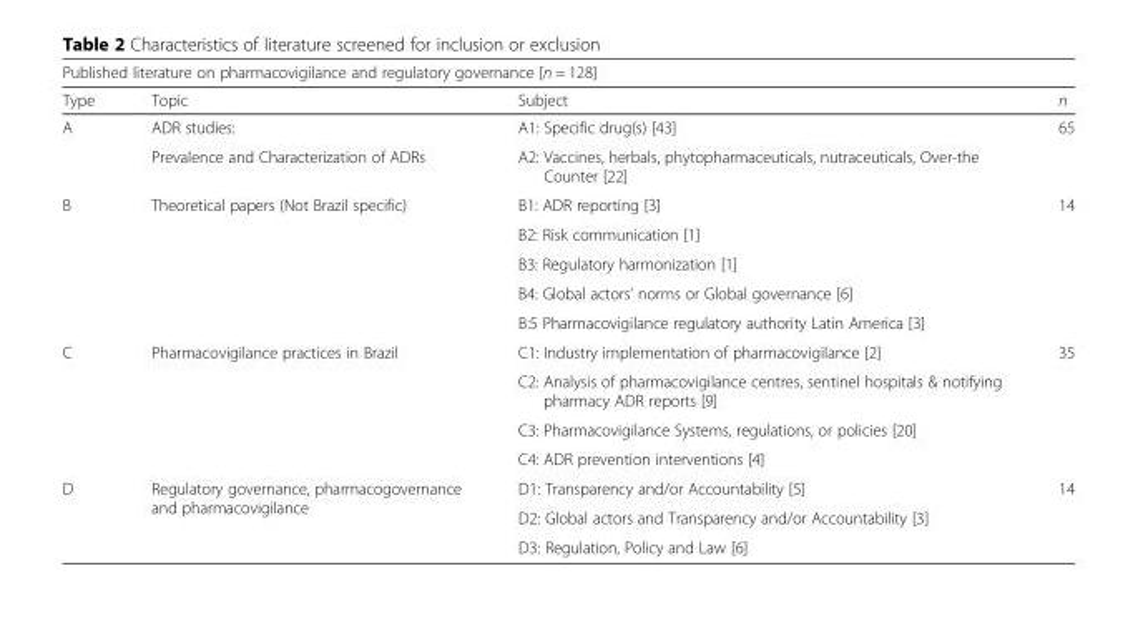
<table><thead><tr><td colspan="4">Published literature on pharmacovigilance and regulatory governance [n = 128]</td></tr><tr><td>Type</td><td>Topic</td><td>Subject</td><td>n</td></tr></thead><tbody><tr><td rowspan="2">A</td><td>ADR studies:</td><td>A1: Specific drug(s) [43]</td><td rowspan="2">65</td></tr><tr><td>Prevalence and Characterization of ADRs</td><td>A2: Vaccines, herbals, phytopharmaceuticals, nutraceuticals, Over-the Counter [22]</td></tr><tr><td rowspan="5">B</td><td rowspan="5">Theoretical papers (Not Brazil specific)</td><td>B1: ADR reporting [3]</td><td rowspan="5">14</td></tr><tr><td>B2: Risk communication [1]</td></tr><tr><td>B3: Regulatory harmonization [1]</td></tr><tr><td>B4: Global actors’ norms or Global governance [6]</td></tr><tr><td>B:5 Pharmacovigilance regulatory authority Latin America [3]</td></tr><tr><td rowspan="4">C</td><td rowspan="4">Pharmacovigilance practices in Brazil</td><td>C1: Industry implementation of pharmacovigilance [2]</td><td rowspan="4">35</td></tr><tr><td>C2: Analysis of pharmacovigilance centres, sentinel hospitals &amp; notifying pharmacy ADR reports [9]</td></tr><tr><td>C3: Pharmacovigilance Systems, regulations, or policies [20]</td></tr><tr><td>C4: ADR prevention interventions [4]</td></tr><tr><td rowspan="3">D</td><td rowspan="3">Regulatory governance, pharmacogovernance and pharmacovigilance</td><td>D1: Transparency and/or Accountability [5]</td><td rowspan="3">14</td></tr><tr><td>D2: Global actors and Transparency and/or Accountability [3]</td></tr><tr><td>D3: Regulation, Policy and Law [6]</td></tr></tbody></table>